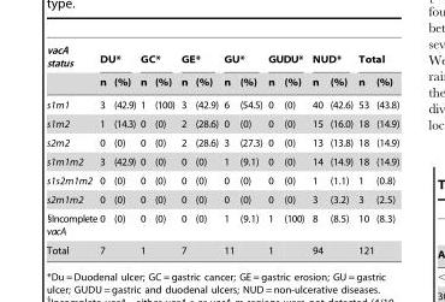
<table><thead><tr><td rowspan="2">vacA status</td><td colspan="2">DU*</td><td colspan="2">GC*</td><td colspan="2">GE*</td><td colspan="2">GU*</td><td colspan="2">GUDU*</td><td colspan="2">NUD*</td><td colspan="2">Total</td></tr><tr><td>n</td><td>(%)</td><td>n</td><td>(%)</td><td>n</td><td>(%)</td><td>n</td><td>(%)</td><td>n</td><td>(%)</td><td>n</td><td>(%)</td><td>n</td><td>(%)</td></tr></thead><tbody><tr><td>s1m1</td><td>3</td><td>(42.9)</td><td>1</td><td>(100)</td><td>3</td><td>(42.9)</td><td>6</td><td>(54.5)</td><td>0</td><td>(0)</td><td>40</td><td>(42.6)</td><td>53</td><td>(43.8)</td></tr><tr><td>s1m2</td><td>1</td><td>(14.3)</td><td>0</td><td>(0)</td><td>2</td><td>(28.6)</td><td>0</td><td>(0)</td><td>0</td><td>(0)</td><td>15</td><td>(16.0)</td><td>18</td><td>(14.9)</td></tr><tr><td>s2m2</td><td>0</td><td>(0)</td><td>0</td><td>(0)</td><td>2</td><td>(28.6)</td><td>3</td><td>(27.3)</td><td>0</td><td>(0)</td><td>13</td><td>(13.8)</td><td>18</td><td>(14.9)</td></tr><tr><td>s1m1m2</td><td>3</td><td>(42.9)</td><td>0</td><td>(0)</td><td>0</td><td>(0)</td><td>1</td><td>(9.1)</td><td>0</td><td>(0)</td><td>14</td><td>(14.9)</td><td>18</td><td>(14.9)</td></tr><tr><td>s1s2m1m2</td><td>0</td><td>(0)</td><td>0</td><td>(0)</td><td>0</td><td>(0)</td><td>0</td><td>(0)</td><td>0</td><td>(0)</td><td>1</td><td>(1.1)</td><td>1</td><td>(0.8)</td></tr><tr><td>s2m1m2</td><td>0</td><td>(0)</td><td>0</td><td>(0)</td><td>0</td><td>(0)</td><td>0</td><td>(0)</td><td>0</td><td>(0)</td><td>3</td><td>(3.2)</td><td>3</td><td>(2.5)</td></tr><tr><td>§Incomplete vacA</td><td>0</td><td>(0)</td><td>0</td><td>(0)</td><td>0</td><td>(0)</td><td>1</td><td>(9.1)</td><td>1</td><td>(100)</td><td>8</td><td>(8.5)</td><td>10</td><td>(8.3)</td></tr><tr><td>Total</td><td>7</td><td></td><td>1</td><td></td><td>7</td><td></td><td>11</td><td></td><td>1</td><td></td><td>94</td><td></td><td>121</td><td></td></tr></tbody></table>